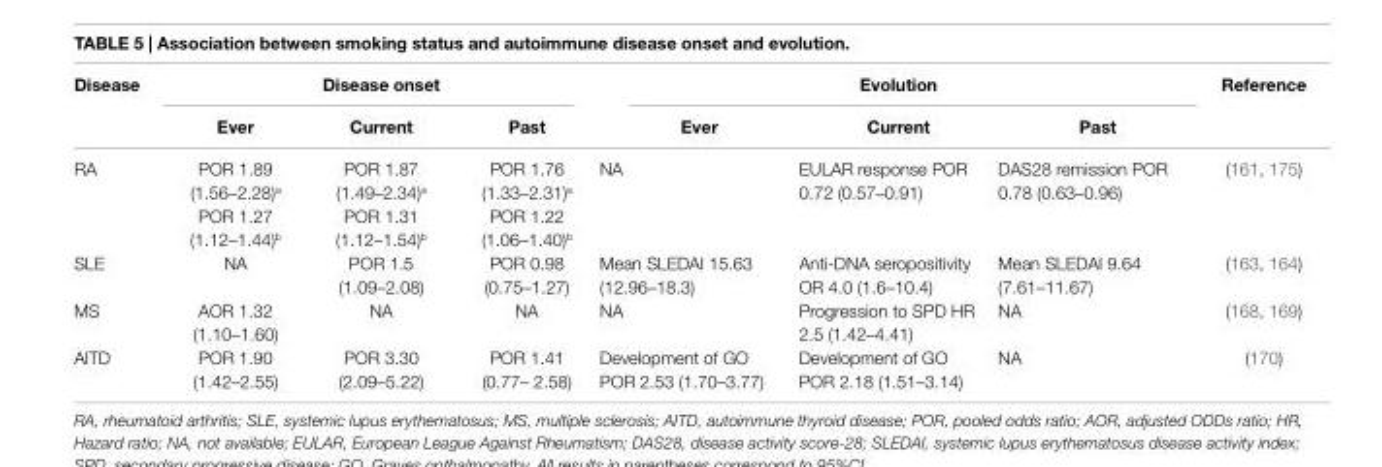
<table><thead><tr><td rowspan="2">Disease</td><td colspan="3">Disease onset</td><td colspan="3">evolution</td><td rowspan="2">Reference</td></tr><tr><td>ever</td><td>Current</td><td>Past</td><td>ever</td><td>Current</td><td>Past</td></tr></thead><tbody><tr><td rowspan="2">RA</td><td>POR 1.89 (1.56–2.28)<sup>a</sup></td><td>POR 1.87 (1.49–2.34)<sup>a</sup></td><td>POR 1.76 (1.33–2.31)<sup>a</sup></td><td rowspan="2">NA</td><td rowspan="2">EULAR response POR 0.72 (0.57–0.91)</td><td rowspan="2">DAS28 remission POR 0.78 (0.63–0.96)</td><td rowspan="2">(161, 175)</td></tr><tr><td>POR 1.27 (1.12–1.44)<sup>b</sup></td><td>POR 1.31 (1.12–1.54)<sup>b</sup></td><td>POR 1.22 (1.06–1.40)<sup>b</sup></td></tr><tr><td>SLE</td><td>NA</td><td>POR 1.5 (1.09–2.08)</td><td>POR 0.98 (0.75–1.27)</td><td>Mean SLEDAI 15.63 (12.96–18.3)</td><td>Anti-DNA seropositivity OR 4.0 (1.6–10.4)</td><td>Mean SLEDAI 9.64 (7.61–11.67)</td><td>(163, 164)</td></tr><tr><td>MS</td><td>AOR 1.32 (1.10–1.60)</td><td>NA</td><td>NA</td><td>NA</td><td>Progression to SPD HR 2.5 (1.42–4.41)</td><td>NA</td><td>(168, 169)</td></tr><tr><td>AITD</td><td>POR 1.90 (1.42–2.55)</td><td>POR 3.30 (2.09–5.22)</td><td>POR 1.41 (0.77– 2.58)</td><td>Development of GO POR 2.53 (1.70–3.77)</td><td>Development of GO POR 2.18 (1.51–3.14)</td><td>NA</td><td>(170)</td></tr></tbody></table>